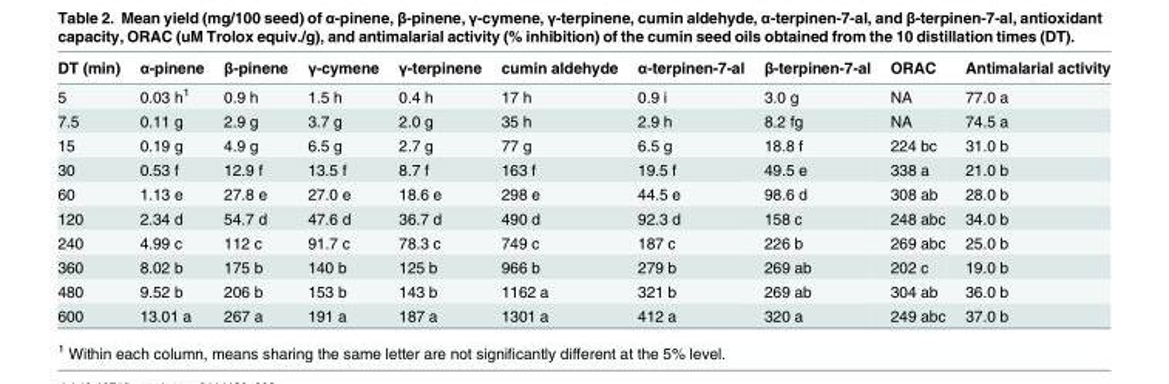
<table><thead><tr><td>DT (min)</td><td>α-pinene</td><td>β-pinene</td><td>γ-cymene</td><td>γ-terpinene</td><td>cumin aldehyde</td><td>α-terpinen-7-al</td><td>β-terpinen-7-al</td><td>ORAC</td><td>Antimalarial activity</td></tr></thead><tbody><tr><td>5</td><td>0.03 h<sup>1</sup></td><td>0.9 h</td><td>1.5 h</td><td>0.4 h</td><td>17 h</td><td>0.9 i</td><td>3.0 g</td><td>NA</td><td>77.0 a</td></tr><tr><td>7.5</td><td>0.11 g</td><td>2.9 g</td><td>3.7 g</td><td>2.0 g</td><td>35 h</td><td>2.9 h</td><td>8.2 fg</td><td>NA</td><td>74.5 a</td></tr><tr><td>15</td><td>0.19 g</td><td>4.9 g</td><td>6.5 g</td><td>2.7 g</td><td>77 g</td><td>6.5 g</td><td>18.8 f</td><td>224 bc</td><td>31.0 b</td></tr><tr><td>30</td><td>0.53 f</td><td>12.9 f</td><td>13.5 f</td><td>8.7 f</td><td>163 f</td><td>19.5 f</td><td>49.5 e</td><td>338 a</td><td>21.0 b</td></tr><tr><td>60</td><td>1.13 e</td><td>27.8 e</td><td>27.0 e</td><td>18.6 e</td><td>298 e</td><td>44.5 e</td><td>98.6 d</td><td>308 ab</td><td>28.0 b</td></tr><tr><td>120</td><td>2.34 d</td><td>54.7 d</td><td>47.6 d</td><td>36.7 d</td><td>490 d</td><td>92.3 d</td><td>158 c</td><td>248 abc</td><td>34.0 b</td></tr><tr><td>240</td><td>4.99 c</td><td>112 c</td><td>91.7 c</td><td>78.3 c</td><td>749 c</td><td>187 c</td><td>226 b</td><td>269 abc</td><td>25.0 b</td></tr><tr><td>360</td><td>8.02 b</td><td>175 b</td><td>140 b</td><td>125 b</td><td>966 b</td><td>279 b</td><td>269 ab</td><td>202 c</td><td>19.0 b</td></tr><tr><td>480</td><td>9.52 b</td><td>206 b</td><td>153 b</td><td>143 b</td><td>1162 a</td><td>321 b</td><td>269 ab</td><td>304 ab</td><td>36.0 b</td></tr><tr><td>600</td><td>13.01 a</td><td>267 a</td><td>191 a</td><td>187 a</td><td>1301 a</td><td>412 a</td><td>320 a</td><td>249 abc</td><td>37.0 b</td></tr></tbody></table>